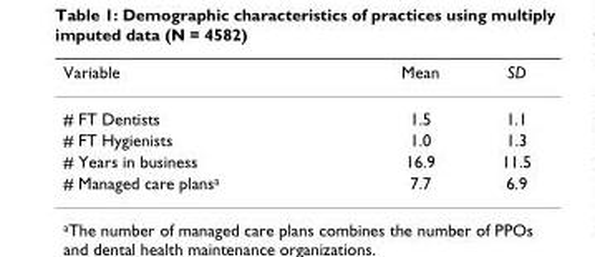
<table><thead><tr><td>Variable</td><td>Mean</td><td>SD</td></tr></thead><tbody><tr><td># FT Dentists</td><td>1.5</td><td>1.1</td></tr><tr><td># FT Hygienists</td><td>1.0</td><td>1.3</td></tr><tr><td># Years in business</td><td>16.9</td><td>11.5</td></tr><tr><td># Managed care plans<sup>a</sup></td><td>7.7</td><td>6.9</td></tr></tbody></table>